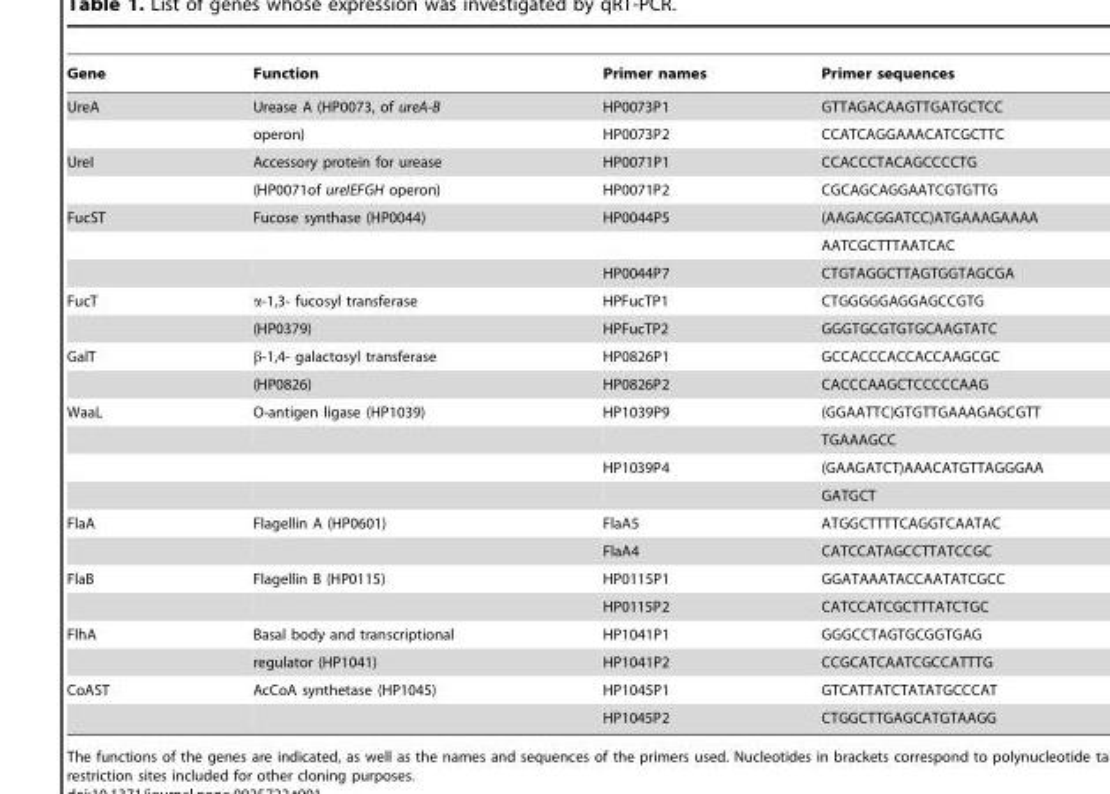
<table><thead><tr><td>Gene</td><td>Function</td><td>Primer names</td><td>Primer sequences</td></tr></thead><tbody><tr><td rowspan="2">UreA</td><td>Urease A (HP0073, of ureA-B</td><td>HP0073P1</td><td>GTTAGACAAGTTGATGCTCC</td></tr><tr><td>operon)</td><td>HP0073P2</td><td>CCATCAGGAAACATCGCTTC</td></tr><tr><td rowspan="2">UreI</td><td>Accessory protein for urease</td><td>HP0071P1</td><td>CCACCCTACAGCCCCTG</td></tr><tr><td>(HP0071of ureIEFGH operon)</td><td>HP0071P2</td><td>CGCAGCAGGAATCGTGTTG</td></tr><tr><td rowspan="3">FucST</td><td>Fucose synthase (HP0044)</td><td>HP0044P5</td><td>(AAGACGGATCC)ATGAAAGAAAA</td></tr><tr><td></td><td></td><td>AATCGCTTTAATCAC</td></tr><tr><td></td><td>HP0044P7</td><td>CTGTAGGCTTAGTGGTAGCGA</td></tr><tr><td rowspan="2">FucT</td><td>α-1,3- fucosyl transferase</td><td>HPFucTP1</td><td>CTGGGGGAGGAGCCGTG</td></tr><tr><td>(HP0379)</td><td>HPFucTP2</td><td>GGGTGCGTGTGCAAGTATC</td></tr><tr><td rowspan="2">GalT</td><td>β-1,4- galactosyl transferase</td><td>HP0826P1</td><td>GCCACCCACCACCAAGCGC</td></tr><tr><td>(HP0826)</td><td>HP0826P2</td><td>CACCCAAGCTCCCCCAAG</td></tr><tr><td rowspan="4">WaaL</td><td>O-antigen ligase (HP1039)</td><td>HP1039P9</td><td>(GGAATTC)GTGTTGAAAGAGCGTT</td></tr><tr><td></td><td></td><td>TGAAAGCC</td></tr><tr><td></td><td>HP1039P4</td><td>(GAAGATCT)AAACATGTTAGGGAA</td></tr><tr><td></td><td></td><td>GATGCT</td></tr><tr><td rowspan="2">FlaA</td><td>Flagellin A (HP0601)</td><td>FlaA5</td><td>ATGGCTTTTCAGGTCAATAC</td></tr><tr><td></td><td>FlaA4</td><td>CATCCATAGCCTTATCCGC</td></tr><tr><td rowspan="2">FlaB</td><td>Flagellin B (HP0115)</td><td>HP0115P1</td><td>GGATAAATACCAATATCGCC</td></tr><tr><td></td><td>HP0115P2</td><td>CATCCATCGCTTTATCTGC</td></tr><tr><td rowspan="2">FlhA</td><td>Basal body and transcriptional</td><td>HP1041P1</td><td>GGGCCTAGTGCGGTGAG</td></tr><tr><td>regulator (HP1041)</td><td>HP1041P2</td><td>CCGCATCAATCGCCATTTG</td></tr><tr><td rowspan="2">CoAST</td><td>AcCoA synthetase (HP1045)</td><td>HP1045P1</td><td>GTCATTATCTATATGCCCAT</td></tr><tr><td></td><td>HP1045P2</td><td>CTGGCTTGAGCATGTAAGG</td></tr></tbody></table>